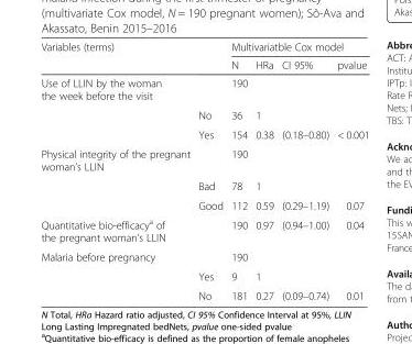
<table><thead><tr><td rowspan="2">Variables (terms)</td><td rowspan="2"></td><td colspan="4">Multivariatble Cox model</td></tr><tr><td>N</td><td>HRa</td><td>CI 95%</td><td>pvalue</td></tr></thead><tbody><tr><td rowspan="3">Use of LLIN by the woman the week before the visit</td><td></td><td>190</td><td></td><td></td><td></td></tr><tr><td>No</td><td>36</td><td>1</td><td></td><td></td></tr><tr><td>Yes</td><td>154</td><td>0.38</td><td>(0.18–0.80)</td><td>&lt; 0.001</td></tr><tr><td rowspan="3">Physical integrity of the pregnant woman’s LLIN</td><td></td><td>190</td><td></td><td></td><td></td></tr><tr><td>Bad</td><td>78</td><td>1</td><td></td><td></td></tr><tr><td>Good</td><td>112</td><td>0.59</td><td>(0.29–1.19)</td><td>0.07</td></tr><tr><td>Quantitative bio-efficacy<sup>a</sup> of the pregnant woman’s LLIN</td><td></td><td>190</td><td>0.97</td><td>(0.94–1.00)</td><td>0.04</td></tr><tr><td rowspan="3">Malaria before pregnancy</td><td></td><td>190</td><td></td><td></td><td></td></tr><tr><td>Yes</td><td>9</td><td>1</td><td></td><td></td></tr><tr><td>No</td><td>181</td><td>0.27</td><td>(0.09–0.74)</td><td>0.01</td></tr></tbody></table>